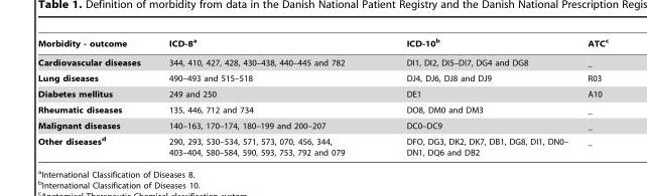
<table><thead><tr><td>Morbidity - outcome</td><td>ICD-8<sup>a</sup></td><td>ICD-10<sup>b</sup></td><td>ATC<sup>c</sup></td></tr></thead><tbody><tr><td>Cardiovascular diseases</td><td>344, 410, 427, 428, 430–438, 440–445 and 782</td><td>DI1, DI2, DI5–DI7, DG4 and DG8</td><td>_</td></tr><tr><td>Lung diseases</td><td>490–493 and 515–518</td><td>DJ4, DJ6, DJ8 and DJ9</td><td>R03</td></tr><tr><td>Diabetes mellitus</td><td>249 and 250</td><td>DE1</td><td>A10</td></tr><tr><td>Rheumatic diseases</td><td>135, 446, 712 and 734</td><td>DO8, DM0 and DM3</td><td>_</td></tr><tr><td>Malignant diseases</td><td>140–163, 170–174, 180–199 and 200–207</td><td>DC0–DC9</td><td>_</td></tr><tr><td>Other diseasesd</td><td>290, 293, 530–534, 571, 573, 070, 456, 344, 403–404, 580–584, 590, 593, 753, 792 and 079</td><td>DFO, DG3, DK2, DK7, DB1, DG8, DI1, DN0– DN1, DQ6 and DB2</td><td>_</td></tr></tbody></table>